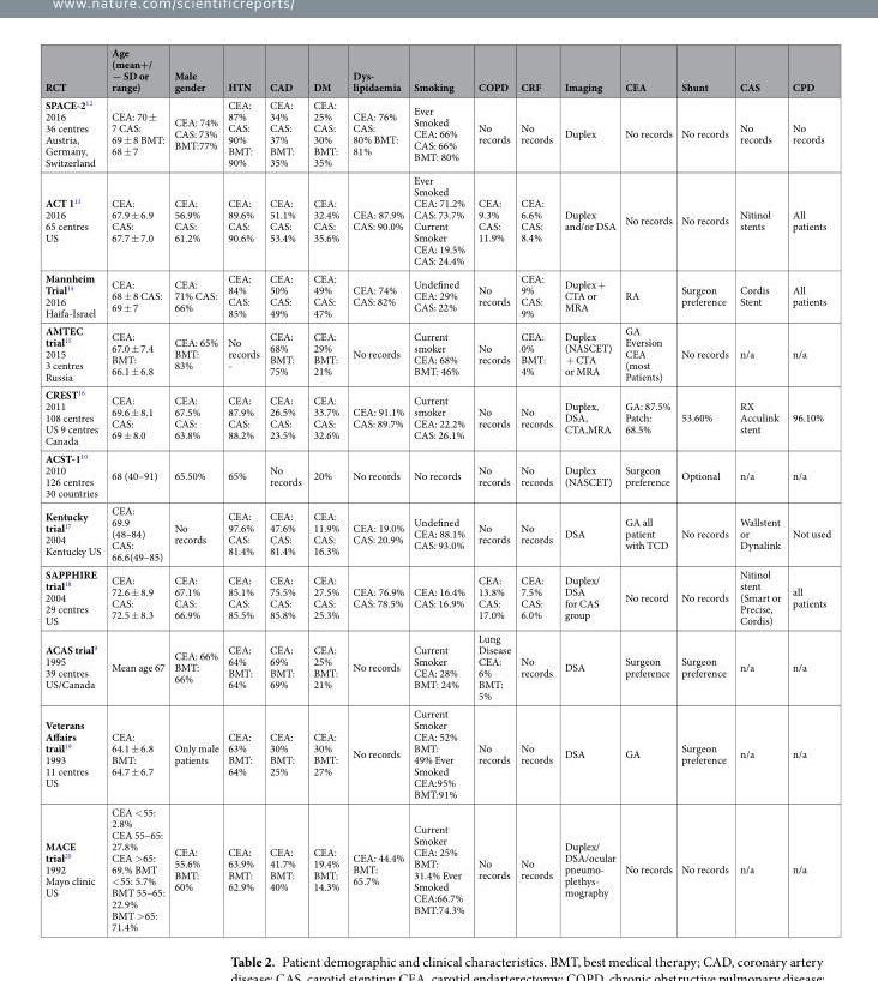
<table><thead><tr><td>RCT</td><td>Age (mean+/ − SD or range)</td><td>Male gender</td><td>HTN</td><td>CAD</td><td>DM</td><td>Dys- lipidaemia</td><td>Smoking</td><td>COPD</td><td>CRF</td><td>Imaging</td><td>CEA</td><td>Shunt</td><td>CAS</td><td>CPD</td></tr></thead><tbody><tr><td>SPACE-2<sup>12</sup> 2016 36 centres Austria, Germany, Switzerland</td><td>CEA: 70 ± 7 CAS: 69 ± 8 BMT: 68 ± 7</td><td>CEA: 74% CAS: 73% BMT:77%</td><td>CEA: 87% CAS: 90% BMT: 90%</td><td>CEA: 34% CAS: 37% BMT: 35%</td><td>CEA: 25% CAS: 30% BMT: 35%</td><td>CEA: 76% CAS: 80% BMT: 81%</td><td>Ever Smoked CEA: 66% CAS: 66% BMT: 80%</td><td>No records</td><td>No records</td><td>Duplex</td><td>No records</td><td>No records</td><td>No records</td><td>No records</td></tr><tr><td>ACT 1<sup>13</sup> 2016 65 centres US</td><td>CEA: 67.9 ± 6.9 CAS: 67.7 ± 7.0</td><td>CEA: 56.9% CAS: 61.2%</td><td>CEA: 89.6% CAS: 90.6%</td><td>CEA: 51.1% CAS: 53.4%</td><td>CEA: 32.4% CAS: 35.6%</td><td>CEA: 87.9% CAS: 90.0%</td><td>Ever Smoked CEA: 71.2% CAS: 73.7% Current Smoker CEA: 19.5% CAS: 24.4%</td><td>CEA: 9.3% CAS: 11.9%</td><td>CEA: 6.6% CAS: 8.4%</td><td>Duplex and/or DSA</td><td>No records</td><td>No records</td><td>Nitinol stents</td><td>All patients</td></tr><tr><td>Mannheim Trial<sup>14</sup> 2016 Haifa-Israel</td><td>CEA: 68 ± 8 CAS: 69 ± 7</td><td>CEA: 71% CAS: 66%</td><td>CEA: 84% CAS: 85%</td><td>CEA: 50% CAS: 49%</td><td>CEA: 49% CAS: 47%</td><td>CEA: 74% CAS: 82%</td><td>Undefined CEA: 29% CAS: 22%</td><td>No records</td><td>CEA: 9% CAS: 9%</td><td>Duplex + CTA or MRA</td><td>RA</td><td>Surgeon preference</td><td>Cordis Stent</td><td>All patients</td></tr><tr><td>AMTEC trial<sup>15</sup> 2015 3 centres Russia</td><td>CEA: 67.0 ± 7.4 BMT: 66.1 ± 6.8</td><td>CEA: 65% BMT: 83%</td><td>No records -</td><td>CEA: 68% BMT: 75%</td><td>CEA: 29% BMT: 21%</td><td>No records</td><td>Current smoker CEA: 68% BMT: 46%</td><td>No records</td><td>CEA: 0% BMT: 4%</td><td>Duplex (NASCET) + CTA or MRA</td><td>GA Eversion CEA (most Patients)</td><td>No records</td><td>n/a</td><td>n/a</td></tr><tr><td>CREST<sup>16</sup> 2011 108 centres US 9 centres Canada</td><td>CEA: 69.6 ± 8.1 CAS: 69 ± 8.0</td><td>CEA: 67.5% CAS: 63.8%</td><td>CEA: 87.9% CAS: 88.2%</td><td>CEA: 26.5% CAS: 23.5%</td><td>CEA: 33.7% CAS: 32.6%</td><td>CEA: 91.1% CAS: 89.7%</td><td>Current smoker CEA: 22.2% CAS: 26.1%</td><td>No records</td><td>No records</td><td>Duplex, DSA, CTA,MRA</td><td>GA: 87.5% Patch: 68.5%</td><td>53.60%</td><td>RX Acculink stent</td><td>96.10%</td></tr><tr><td>ACST-1<sup>10</sup> 2010 126 centres 30 countries</td><td>68 (40–91)</td><td>65.50%</td><td>65%</td><td>No records</td><td>20%</td><td>No records</td><td>No records</td><td>No records</td><td>No records</td><td>Duplex (NASCET)</td><td>Surgeon preference</td><td>Optional</td><td>n/a</td><td>n/a</td></tr><tr><td>Kentucky trial<sup>17</sup> 2004 Kentucky US</td><td>CEA: 69.9 (48–84) CAS: 66.6(49–85)</td><td>No records</td><td>CEA: 97.6% CAS: 81.4%</td><td>CEA: 47.6% CAS: 81.4%</td><td>CEA: 11.9% CAS: 16.3%</td><td>CEA: 19.0% CAS: 20.9%</td><td>Undefined CEA: 88.1% CAS: 93.0%</td><td>No records</td><td>No records</td><td>DSA</td><td>GA all patient with TCD</td><td>No records</td><td>Wallstent or Dynalink</td><td>Not used</td></tr><tr><td>SAPPHIRE trial<sup>18</sup> 2004 29 centres US</td><td>CEA: 72.6 ± 8.9 CAS: 72.5 ± 8.3</td><td>CEA: 67.1% CAS: 66.9%</td><td>CEA: 85.1% CAS: 85.5%</td><td>CEA: 75.5% CAS: 85.8%</td><td>CEA: 27.5% CAS: 25.3%</td><td>CEA: 76.9% CAS: 78.5%</td><td>CEA: 16.4% CAS: 16.9%</td><td>CEA: 13.8% CAS: 17.0%</td><td>CEA: 7.5% CAS: 6.0%</td><td>Duplex/ DSA for CAS group</td><td>No record</td><td>No records</td><td>Nitinol stent (Smart or Precise, Cordis)</td><td>all patients</td></tr><tr><td>ACAS trial<sup>9</sup> 1995 39 centres US/Canada</td><td>Mean age 67</td><td>CEA: 66% BMT: 66%</td><td>CEA: 64% BMT: 64%</td><td>CEA: 69% BMT: 69%</td><td>CEA: 25% BMT: 21%</td><td>No records</td><td>Current Smoker CEA: 28% BMT: 24%</td><td>Lung Disease CEA: 6% BMT: 5%</td><td>No records</td><td>DSA</td><td>Surgeon preference</td><td>Surgeon preference</td><td>n/a</td><td>n/a</td></tr><tr><td>Veterans Affairs trail<sup>19</sup> 1993 11 centres US</td><td>CEA: 64.1 ± 6.8 BMT: 64.7 ± 6.7</td><td>Only male patients</td><td>CEA: 63% BMT: 64%</td><td>CEA: 30% BMT: 25%</td><td>CEA: 30% BMT: 27%</td><td>No records</td><td>Current Smoker CEA: 52% BMT: 49% Ever Smoked CEA:95% BMT:91%</td><td>No records</td><td>No records</td><td>DSA</td><td>GA</td><td>Surgeon preference</td><td>n/a</td><td>n/a</td></tr><tr><td>MACE trial<sup>20</sup> 1992 Mayo clinic US</td><td>CEA &lt;55: 2.8% CEA 55–65: 27.8% CEA &gt;65: 69.% BMT &lt;55: 5.7% BMT 55–65: 22.9% BMT &gt;65: 71.4%</td><td>CEA: 55.6% BMT: 60%</td><td>CEA: 63.9% BMT: 62.9%</td><td>CEA: 41.7% BMT: 40%</td><td>CEA: 19.4% BMT: 14.3%</td><td>CEA: 44.4% BMT: 65.7%</td><td>Current Smoker CEA: 25% BMT: 31.4% Ever Smoked CEA:66.7% BMT:74.3%</td><td>No records</td><td>No records</td><td>Duplex/ DSA/ocular pneumo- plethys- mography</td><td>No records</td><td>No records</td><td>n/a</td><td>n/a</td></tr></tbody></table>